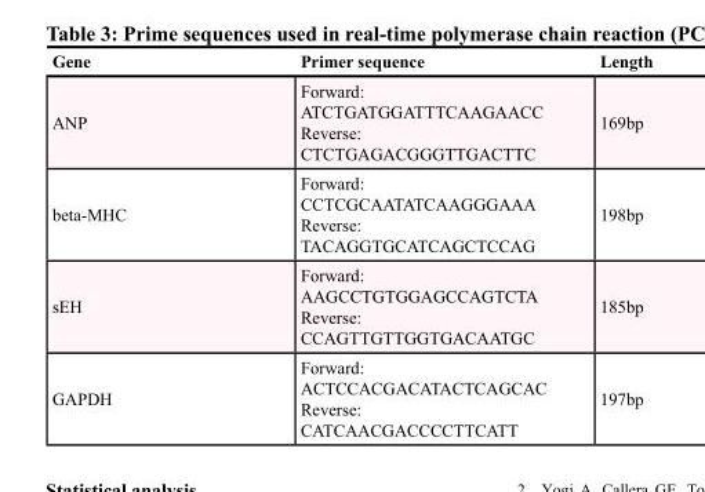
<table><thead><tr><td>Gene</td><td>Primer sequence</td><td>Length</td></tr></thead><tbody><tr><td>ANP</td><td>Forward: ATCTGATGGATTTCAAGAACC Reverse: CTCTGAGACGGGTTGACTTC</td><td>169bp</td></tr><tr><td>beta-MHC</td><td>Forward: CCTCGCAATATCAAGGGAAA Reverse: TACAGGTGCATCAGCTCCAG</td><td>198bp</td></tr><tr><td>sEH</td><td>Forward: AAGCCTGTGGAGCCAGTCTA Reverse: CCAGTTGTTGGTGACAATGC</td><td>185bp</td></tr><tr><td>GAPDH</td><td>Forward: ACTCCACGACATACTCAGCAC Reverse: CATCAACGACCCCTTCATT</td><td>197bp</td></tr></tbody></table>